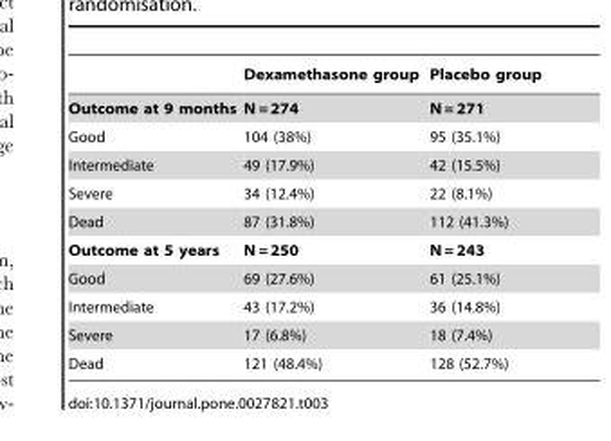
<table><thead><tr><td></td><td>Dexamethasone group</td><td>Placebo group</td></tr></thead><tbody><tr><td>Outcome at 9 months</td><td>N = 274</td><td>N = 271</td></tr><tr><td>Good</td><td>104 (38%)</td><td>95 (35.1%)</td></tr><tr><td>Intermediate</td><td>49 (17.9%)</td><td>42 (15.5%)</td></tr><tr><td>Severe</td><td>34 (12.4%)</td><td>22 (8.1%)</td></tr><tr><td>Dead</td><td>87 (31.8%)</td><td>112 (41.3%)</td></tr><tr><td>Outcome at 5 years</td><td>N = 250</td><td>N = 243</td></tr><tr><td>Good</td><td>69 (27.6%)</td><td>61 (25.1%)</td></tr><tr><td>Intermediate</td><td>43 (17.2%)</td><td>36 (14.8%)</td></tr><tr><td>Severe</td><td>17 (6.8%)</td><td>18 (7.4%)</td></tr><tr><td>Dead</td><td>121 (48.4%)</td><td>128 (52.7%)</td></tr></tbody></table>